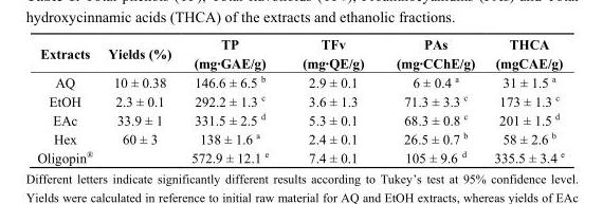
<table><thead><tr><td>Extracts</td><td>Yields (%)</td><td>TP (mg∙GAE/g)</td><td>TFv (mg∙QE/g)</td><td>PAs (mg∙CChE/g)</td><td>THCA (mgCAE/g)</td></tr></thead><tbody><tr><td>AQ</td><td>10 ± 0.38</td><td>146.6 ± 6.5 <sup>b</sup></td><td>2.9 ± 0.1</td><td>6 ± 0.4 <sup>a</sup></td><td>31 ± 1.5 <sup>a</sup></td></tr><tr><td>EtOH</td><td>2.3 ± 0.1</td><td>292.2 ± 1.3 <sup>c</sup></td><td>3.6 ± 1.3</td><td>71.3 ± 3.3 <sup>c</sup></td><td>173 ± 1.3 <sup>c</sup></td></tr><tr><td>EAc</td><td>33.9 ± 1</td><td>331.5 ± 2.5 <sup>d</sup></td><td>5.3 ± 0.1</td><td>68.3 ± 0.8 <sup>c</sup></td><td>201 ± 1.5 <sup>d</sup></td></tr><tr><td>Hex</td><td>60 ± 3</td><td>138 ± 1.6 <sup>a</sup></td><td>2.4 ± 0.1</td><td>26.5 ± 0.7 <sup>b</sup></td><td>58 ± 2.6 <sup>b</sup></td></tr><tr><td>Oligopin<sup>®</sup></td><td></td><td>572.9 ± 12.1 <sup>e</sup></td><td>7.4 ± 0.1</td><td>105 ± 9.6 <sup>d</sup></td><td>335.5 ± 3.4 <sup>e</sup></td></tr></tbody></table>